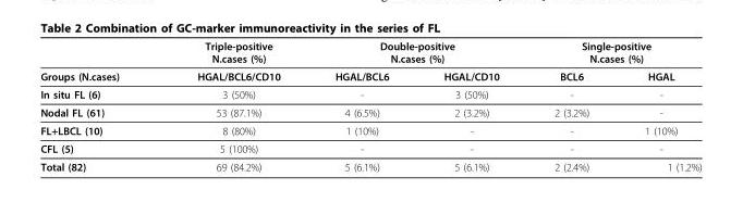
<table><thead><tr><td rowspan="2">Groups (N.cases)</td><td rowspan="2">Triple-positive N.cases (%) HGAL/BCL6/CD10</td><td colspan="2">Double-positive N.cases (%)</td><td colspan="2">Single-positive N.cases (%)</td></tr><tr><td>HGAL/BCL6</td><td>HGAL/CD10</td><td>BCL6</td><td>HGAL</td></tr></thead><tbody><tr><td>In situ FL (6)</td><td>3 (50%)</td><td>-</td><td>3 (50%)</td><td>-</td><td>-</td></tr><tr><td>Nodal FL (61)</td><td>53 (87.1%)</td><td>4 (6.5%)</td><td>2 (3.2%)</td><td>2 (3.2%)</td><td>-</td></tr><tr><td>FL+LBCL (10)</td><td>8 (80%)</td><td>1 (10%)</td><td>-</td><td>-</td><td>1 (10%)</td></tr><tr><td>CFL (5)</td><td>5 (100%)</td><td>-</td><td>-</td><td>-</td><td>-</td></tr><tr><td>Total (82)</td><td>69 (84.2%)</td><td>5 (6.1%)</td><td>5 (6.1%)</td><td>2 (2.4%)</td><td>1 (1.2%)</td></tr></tbody></table>